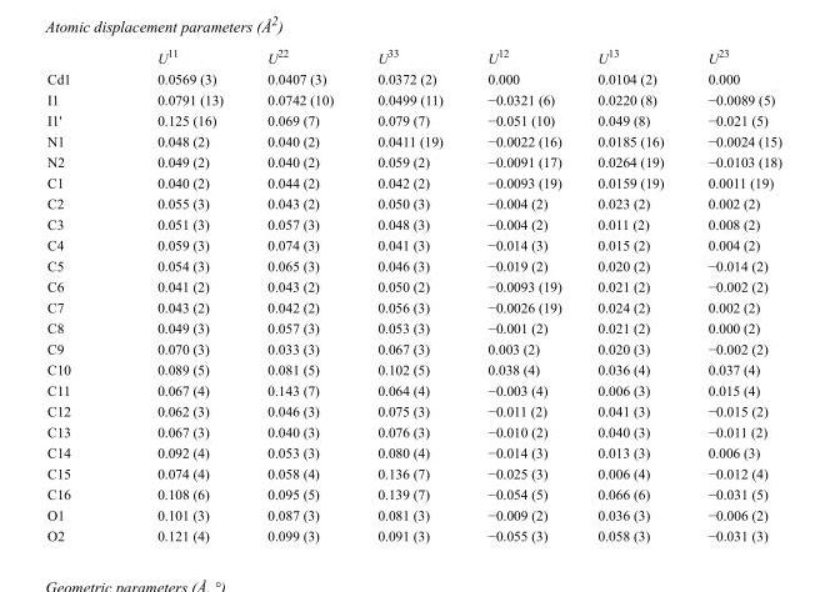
<table><thead><tr><td></td><td>U<sup>11</sup></td><td>U<sup>22</sup></td><td>U<sup>33</sup></td><td>U<sup>12</sup></td><td>U<sup>13</sup></td><td>U<sup>23</sup></td></tr></thead><tbody><tr><td>Cd1</td><td>0.0569 (3)</td><td>0.0407 (3)</td><td>0.0372 (2)</td><td>0.000</td><td>0.0104 (2)</td><td>0.000</td></tr><tr><td>I1</td><td>0.0791 (13)</td><td>0.0742 (10)</td><td>0.0499 (11)</td><td>−0.0321 (6)</td><td>0.0220 (8)</td><td>−0.0089 (5)</td></tr><tr><td>I1&#x27;</td><td>0.125 (16)</td><td>0.069 (7)</td><td>0.079 (7)</td><td>−0.051 (10)</td><td>0.049 (8)</td><td>−0.021 (5)</td></tr><tr><td>N1</td><td>0.048 (2)</td><td>0.040 (2)</td><td>0.0411 (19)</td><td>−0.0022 (16)</td><td>0.0185 (16)</td><td>−0.0024 (15)</td></tr><tr><td>N2</td><td>0.049 (2)</td><td>0.040 (2)</td><td>0.059 (2)</td><td>−0.0091 (17)</td><td>0.0264 (19)</td><td>−0.0103 (18)</td></tr><tr><td>C1</td><td>0.040 (2)</td><td>0.044 (2)</td><td>0.042 (2)</td><td>−0.0093 (19)</td><td>0.0159 (19)</td><td>0.0011 (19)</td></tr><tr><td>C2</td><td>0.055 (3)</td><td>0.043 (2)</td><td>0.050 (3)</td><td>−0.004 (2)</td><td>0.023 (2)</td><td>0.002 (2)</td></tr><tr><td>C3</td><td>0.051 (3)</td><td>0.057 (3)</td><td>0.048 (3)</td><td>−0.004 (2)</td><td>0.011 (2)</td><td>0.008 (2)</td></tr><tr><td>C4</td><td>0.059 (3)</td><td>0.074 (3)</td><td>0.041 (3)</td><td>−0.014 (3)</td><td>0.015 (2)</td><td>0.004 (2)</td></tr><tr><td>C5</td><td>0.054 (3)</td><td>0.065 (3)</td><td>0.046 (3)</td><td>−0.019 (2)</td><td>0.020 (2)</td><td>−0.014 (2)</td></tr><tr><td>C6</td><td>0.041 (2)</td><td>0.043 (2)</td><td>0.050 (2)</td><td>−0.0093 (19)</td><td>0.021 (2)</td><td>−0.002 (2)</td></tr><tr><td>C7</td><td>0.043 (2)</td><td>0.042 (2)</td><td>0.056 (3)</td><td>−0.0026 (19)</td><td>0.024 (2)</td><td>0.002 (2)</td></tr><tr><td>C8</td><td>0.049 (3)</td><td>0.057 (3)</td><td>0.053 (3)</td><td>−0.001 (2)</td><td>0.021 (2)</td><td>0.000 (2)</td></tr><tr><td>C9</td><td>0.070 (3)</td><td>0.033 (3)</td><td>0.067 (3)</td><td>0.003 (2)</td><td>0.020 (3)</td><td>−0.002 (2)</td></tr><tr><td>C10</td><td>0.089 (5)</td><td>0.081 (5)</td><td>0.102 (5)</td><td>0.038 (4)</td><td>0.036 (4)</td><td>0.037 (4)</td></tr><tr><td>C11</td><td>0.067 (4)</td><td>0.143 (7)</td><td>0.064 (4)</td><td>−0.003 (4)</td><td>0.006 (3)</td><td>0.015 (4)</td></tr><tr><td>C12</td><td>0.062 (3)</td><td>0.046 (3)</td><td>0.075 (3)</td><td>−0.011 (2)</td><td>0.041 (3)</td><td>−0.015 (2)</td></tr><tr><td>C13</td><td>0.067 (3)</td><td>0.040 (3)</td><td>0.076 (3)</td><td>−0.010 (2)</td><td>0.040 (3)</td><td>−0.011 (2)</td></tr><tr><td>C14</td><td>0.092 (4)</td><td>0.053 (3)</td><td>0.080 (4)</td><td>−0.014 (3)</td><td>0.013 (3)</td><td>0.006 (3)</td></tr><tr><td>C15</td><td>0.074 (4)</td><td>0.058 (4)</td><td>0.136 (7)</td><td>−0.025 (3)</td><td>0.006 (4)</td><td>−0.012 (4)</td></tr><tr><td>C16</td><td>0.108 (6)</td><td>0.095 (5)</td><td>0.139 (7)</td><td>−0.054 (5)</td><td>0.066 (6)</td><td>−0.031 (5)</td></tr><tr><td>O1</td><td>0.101 (3)</td><td>0.087 (3)</td><td>0.081 (3)</td><td>−0.009 (2)</td><td>0.036 (3)</td><td>−0.006 (2)</td></tr><tr><td>O2</td><td>0.121 (4)</td><td>0.099 (3)</td><td>0.091 (3)</td><td>−0.055 (3)</td><td>0.058 (3)</td><td>−0.031 (3)</td></tr></tbody></table>